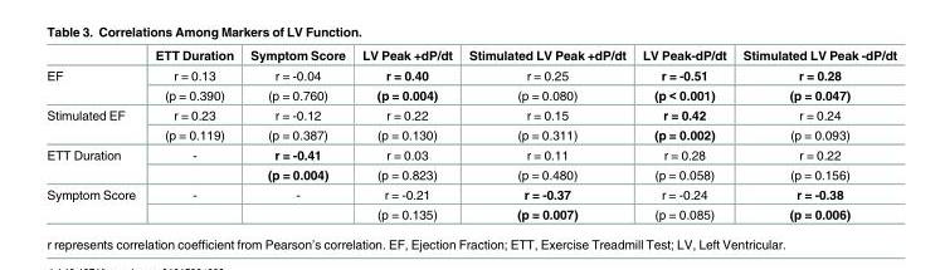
<table><thead><tr><td></td><td>ETT Duration</td><td>Symptom Score</td><td>LV Peak +dP/dt</td><td>Stimulated LV Peak +dP/dt</td><td>LV Peak-dP/dt</td><td>Stimulated LV Peak -dP/dt</td></tr></thead><tbody><tr><td rowspan="2">EF</td><td>r = 0.13</td><td>r = -0.04</td><td>r = 0.40</td><td>r = 0.25</td><td>r = -0.51</td><td>r = 0.28</td></tr><tr><td>(p = 0.390)</td><td>(p = 0.760)</td><td>(p = 0.004)</td><td>(p = 0.080)</td><td>(p &lt; 0.001)</td><td>(p = 0.047)</td></tr><tr><td rowspan="2">Stimulated EF</td><td>r = 0.23</td><td>r = -0.12</td><td>r = 0.22</td><td>r = 0.15</td><td>r = 0.42</td><td>r = 0.24</td></tr><tr><td>(p = 0.119)</td><td>(p = 0.387)</td><td>(p = 0.130)</td><td>(p = 0.311)</td><td>(p = 0.002)</td><td>(p = 0.093)</td></tr><tr><td rowspan="2">ETT Duration</td><td>-</td><td>r = -0.41</td><td>r = 0.03</td><td>r = 0.11</td><td>r = 0.28</td><td>r = 0.22</td></tr><tr><td></td><td>(p = 0.004)</td><td>(p = 0.823)</td><td>(p = 0.480)</td><td>(p = 0.058)</td><td>(p = 0.156)</td></tr><tr><td rowspan="2">Symptom Score</td><td>-</td><td>-</td><td>r = -0.21</td><td>r = -0.37</td><td>r = -0.24</td><td>r = -0.38</td></tr><tr><td></td><td></td><td>(p = 0.135)</td><td>(p = 0.007)</td><td>(p = 0.085)</td><td>(p = 0.006)</td></tr></tbody></table>